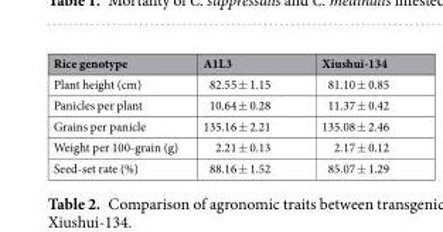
<table><thead><tr><td>Rice genotype</td><td>A1L3</td><td>Xiushui-134</td></tr></thead><tbody><tr><td>Plant height (cm)</td><td>82.55 ± 1.15</td><td>81.10 ± 0.85</td></tr><tr><td>Panicles per plant</td><td>10.64 ± 0.28</td><td>11.37 ± 0.42</td></tr><tr><td>Grains per panicle</td><td>135.16 ± 2.21</td><td>135.08 ± 2.46</td></tr><tr><td>Weight per 100-grain (g)</td><td>2.21 ± 0.13</td><td>2.17 ± 0.12</td></tr><tr><td>Seed-set rate (%)</td><td>88.16 ± 1.52</td><td>85.07 ± 1.29</td></tr></tbody></table>